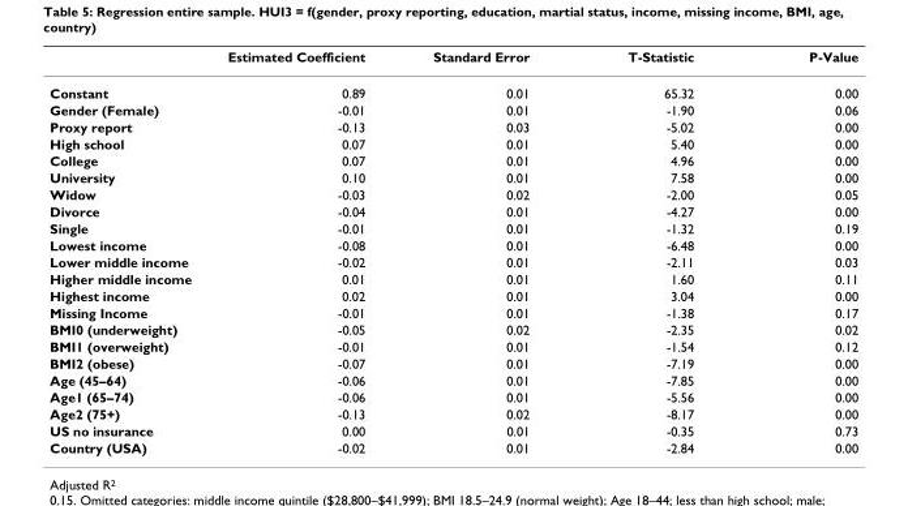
<table><thead><tr><td></td><td>Estimated Coefficient</td><td>Standard Error</td><td>T-Statistic</td><td>P-Value</td></tr></thead><tbody><tr><td>Constant</td><td>0.89</td><td>0.01</td><td>65.32</td><td>0.00</td></tr><tr><td>Gender (Female)</td><td>-0.01</td><td>0.01</td><td>-1.90</td><td>0.06</td></tr><tr><td>Proxy report</td><td>-0.13</td><td>0.03</td><td>-5.02</td><td>0.00</td></tr><tr><td>High school</td><td>0.07</td><td>0.01</td><td>5.40</td><td>0.00</td></tr><tr><td>College</td><td>0.07</td><td>0.01</td><td>4.96</td><td>0.00</td></tr><tr><td>University</td><td>0.10</td><td>0.01</td><td>7.58</td><td>0.00</td></tr><tr><td>Widow</td><td>-0.03</td><td>0.02</td><td>-2.00</td><td>0.05</td></tr><tr><td>Divorce</td><td>-0.04</td><td>0.01</td><td>-4.27</td><td>0.00</td></tr><tr><td>Single</td><td>-0.01</td><td>0.01</td><td>-1.32</td><td>0.19</td></tr><tr><td>Lowest income</td><td>-0.08</td><td>0.01</td><td>-6.48</td><td>0.00</td></tr><tr><td>Lower middle income</td><td>-0.02</td><td>0.01</td><td>-2.11</td><td>0.03</td></tr><tr><td>Higher middle income</td><td>0.01</td><td>0.01</td><td>1.60</td><td>0.11</td></tr><tr><td>Highest income</td><td>0.02</td><td>0.01</td><td>3.04</td><td>0.00</td></tr><tr><td>Missing Income</td><td>-0.01</td><td>0.01</td><td>-1.38</td><td>0.17</td></tr><tr><td>BMI0 (underweight)</td><td>-0.05</td><td>0.02</td><td>-2.35</td><td>0.02</td></tr><tr><td>BMI1 (overweight)</td><td>-0.01</td><td>0.01</td><td>-1.54</td><td>0.12</td></tr><tr><td>BMI2 (obese)</td><td>-0.07</td><td>0.01</td><td>-7.19</td><td>0.00</td></tr><tr><td>Age (45–64)</td><td>-0.06</td><td>0.01</td><td>-7.85</td><td>0.00</td></tr><tr><td>Age1 (65–74)</td><td>-0.06</td><td>0.01</td><td>-5.56</td><td>0.00</td></tr><tr><td>Age2 (75+)</td><td>-0.13</td><td>0.02</td><td>-8.17</td><td>0.00</td></tr><tr><td>US no insurance</td><td>0.00</td><td>0.01</td><td>-0.35</td><td>0.73</td></tr><tr><td>Country (USA)</td><td>-0.02</td><td>0.01</td><td>-2.84</td><td>0.00</td></tr></tbody></table>